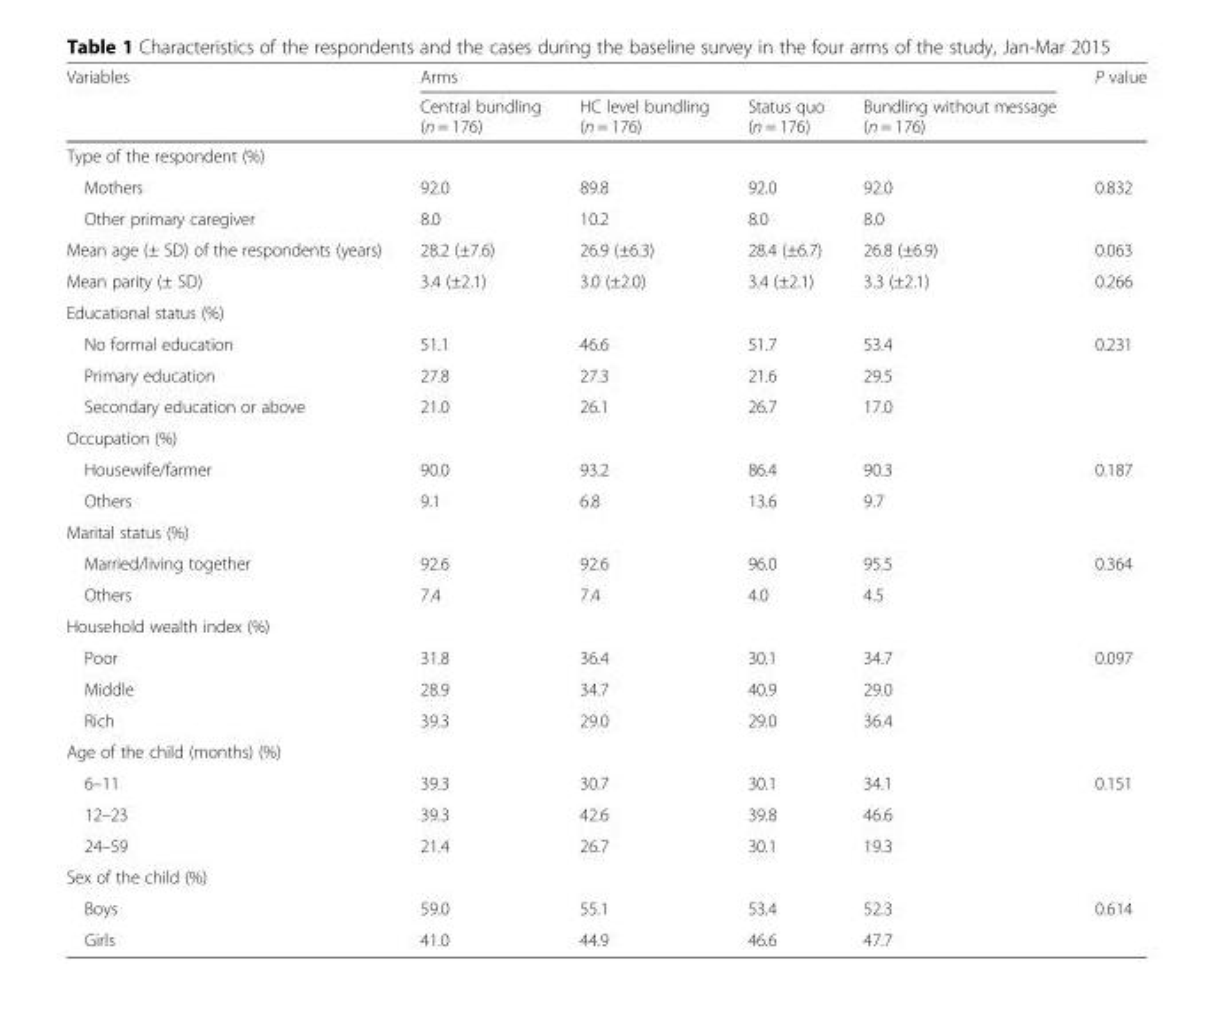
<table><thead><tr><td rowspan="2">Variables</td><td colspan="4">Arms</td><td rowspan="2">P value</td></tr><tr><td>Central bundling (n = 176)</td><td>HC level bundling (n = 176)</td><td>Status quo (n = 176)</td><td>Bundling without message (n = 176)</td></tr></thead><tbody><tr><td colspan="6">Type of the respondent (%)</td></tr><tr><td>Mothers</td><td>92.0</td><td>89.8</td><td>92.0</td><td>92.0</td><td rowspan="2">0.832</td></tr><tr><td>Other primary caregiver</td><td>8.0</td><td>10.2</td><td>8.0</td><td>8.0</td></tr><tr><td>Mean age (± SD) of the respondents (years)</td><td>28.2 (±7.6)</td><td>26.9 (±6.3)</td><td>28.4 (±6.7)</td><td>26.8 (±6.9)</td><td>0.063</td></tr><tr><td>Mean parity (± SD)</td><td>3.4 (±2.1)</td><td>3.0 (±2.0)</td><td>3.4 (±2.1)</td><td>3.3 (±2.1)</td><td>0.266</td></tr><tr><td colspan="6">Educational status (%)</td></tr><tr><td>No formal education</td><td>51.1</td><td>46.6</td><td>51.7</td><td>53.4</td><td rowspan="2">0.231</td></tr><tr><td>Primary education</td><td>27.8</td><td>27.3</td><td>21.6</td><td>29.5</td></tr><tr><td>Secondary education or above</td><td>21.0</td><td>26.1</td><td>26.7</td><td>17.0</td><td></td></tr><tr><td colspan="6">Occupation (%)</td></tr><tr><td>Housewife/farmer</td><td>90.0</td><td>93.2</td><td>86.4</td><td>90.3</td><td rowspan="2">0.187</td></tr><tr><td>Others</td><td>9.1</td><td>6.8</td><td>13.6</td><td>9.7</td></tr><tr><td colspan="6">Marital status (%)</td></tr><tr><td>Married/living together</td><td>92.6</td><td>92.6</td><td>96.0</td><td>95.5</td><td rowspan="2">0.364</td></tr><tr><td>Others</td><td>7.4</td><td>7.4</td><td>4.0</td><td>4.5</td></tr><tr><td colspan="6">Household wealth index (%)</td></tr><tr><td>Poor</td><td>31.8</td><td>36.4</td><td>30.1</td><td>34.7</td><td rowspan="3">0.097</td></tr><tr><td>Middle</td><td>28.9</td><td>34.7</td><td>40.9</td><td>29.0</td></tr><tr><td>Rich</td><td>39.3</td><td>29.0</td><td>29.0</td><td>36.4</td></tr><tr><td colspan="6">Age of the child (months) (%)</td></tr><tr><td>6–11</td><td>39.3</td><td>30.7</td><td>30.1</td><td>34.1</td><td rowspan="3">0.151</td></tr><tr><td>12–23</td><td>39.3</td><td>42.6</td><td>39.8</td><td>46.6</td></tr><tr><td>24–59</td><td>21.4</td><td>26.7</td><td>30.1</td><td>19.3</td></tr><tr><td colspan="6">Sex of the child (%)</td></tr><tr><td>Boys</td><td>59.0</td><td>55.1</td><td>53.4</td><td>52.3</td><td rowspan="2">0.614</td></tr><tr><td>Girls</td><td>41.0</td><td>44.9</td><td>46.6</td><td>47.7</td></tr></tbody></table>